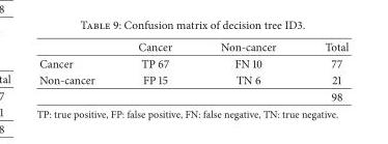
<table><thead><tr><td></td><td>Cancer</td><td>Non-cancer</td><td>Total</td></tr></thead><tbody><tr><td>Cancer</td><td>TP 67</td><td>FN 10</td><td>77</td></tr><tr><td rowspan="2">Non-cancer</td><td>FP 15</td><td>TN 6</td><td>21</td></tr><tr><td></td><td></td><td>98</td></tr></tbody></table>